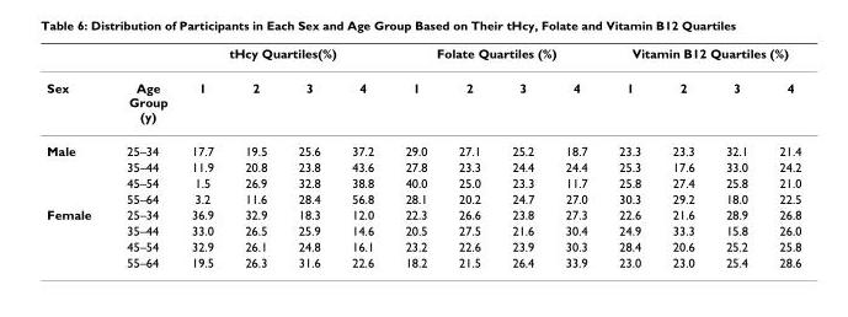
<table><thead><tr><td rowspan="2">Sex</td><td rowspan="2">Age Group (y)</td><td colspan="4">tHcy Quartiles(%)</td><td colspan="4">Folate Quartiles (%)</td><td colspan="4">Vitamin B12 Quartiles (%)</td></tr><tr><td>1</td><td>2</td><td>3</td><td>4</td><td>1</td><td>2</td><td>3</td><td>4</td><td>1</td><td>2</td><td>3</td><td>4</td></tr></thead><tbody><tr><td rowspan="4">Male</td><td>25–34</td><td>17.7</td><td>19.5</td><td>25.6</td><td>37.2</td><td>29.0</td><td>27.1</td><td>25.2</td><td>18.7</td><td>23.3</td><td>23.3</td><td>32.1</td><td>21.4</td></tr><tr><td>35–44</td><td>11.9</td><td>20.8</td><td>23.8</td><td>43.6</td><td>27.8</td><td>23.3</td><td>24.4</td><td>24.4</td><td>25.3</td><td>17.6</td><td>33.0</td><td>24.2</td></tr><tr><td>45–54</td><td>1.5</td><td>26.9</td><td>32.8</td><td>38.8</td><td>40.0</td><td>25.0</td><td>23.3</td><td>11.7</td><td>25.8</td><td>27.4</td><td>25.8</td><td>21.0</td></tr><tr><td>55–64</td><td>3.2</td><td>11.6</td><td>28.4</td><td>56.8</td><td>28.1</td><td>20.2</td><td>24.7</td><td>27.0</td><td>30.3</td><td>29.2</td><td>18.0</td><td>22.5</td></tr><tr><td rowspan="4">Female</td><td>25–34</td><td>36.9</td><td>32.9</td><td>18.3</td><td>12.0</td><td>22.3</td><td>26.6</td><td>23.8</td><td>27.3</td><td>22.6</td><td>21.6</td><td>28.9</td><td>26.8</td></tr><tr><td>35–44</td><td>33.0</td><td>26.5</td><td>25.9</td><td>14.6</td><td>20.5</td><td>27.5</td><td>21.6</td><td>30.4</td><td>24.9</td><td>33.3</td><td>15.8</td><td>26.0</td></tr><tr><td>45–54</td><td>32.9</td><td>26.1</td><td>24.8</td><td>16.1</td><td>23.2</td><td>22.6</td><td>23.9</td><td>30.3</td><td>28.4</td><td>20.6</td><td>25.2</td><td>25.8</td></tr><tr><td>55–64</td><td>19.5</td><td>26.3</td><td>31.6</td><td>22.6</td><td>18.2</td><td>21.5</td><td>26.4</td><td>33.9</td><td>23.0</td><td>23.0</td><td>25.4</td><td>28.6</td></tr></tbody></table>